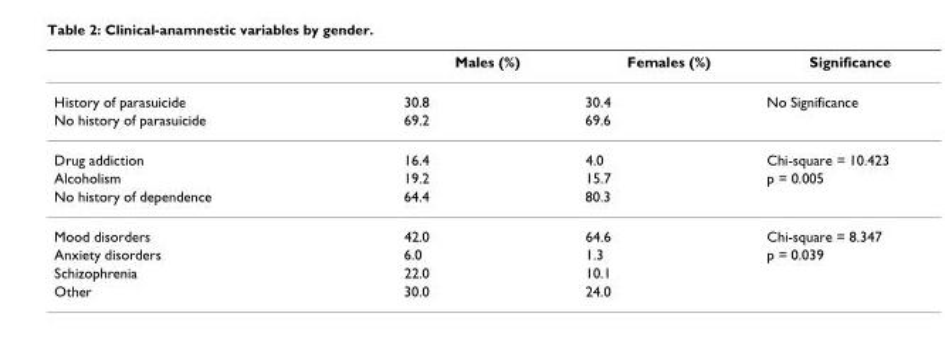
<table><thead><tr><td></td><td>Males (%)</td><td>Females (%)</td><td>Significance</td></tr></thead><tbody><tr><td>History of parasuicide</td><td>30.8</td><td>30.4</td><td>No Significance</td></tr><tr><td>No history of parasuicide</td><td>69.2</td><td>69.6</td><td></td></tr><tr><td>Drug addiction</td><td>16.4</td><td>4.0</td><td>Chi-square = 10.423</td></tr><tr><td>Alcoholism</td><td>19.2</td><td>15.7</td><td>p = 0.005</td></tr><tr><td>No history of dependence</td><td>64.4</td><td>80.3</td><td></td></tr><tr><td>Mood disorders</td><td>42.0</td><td>64.6</td><td>Chi-square = 8.347</td></tr><tr><td>Anxiety disorders</td><td>6.0</td><td>1.3</td><td>p = 0.039</td></tr><tr><td>Schizophrenia</td><td>22.0</td><td>10.1</td><td></td></tr><tr><td>Other</td><td>30.0</td><td>24.0</td><td></td></tr></tbody></table>